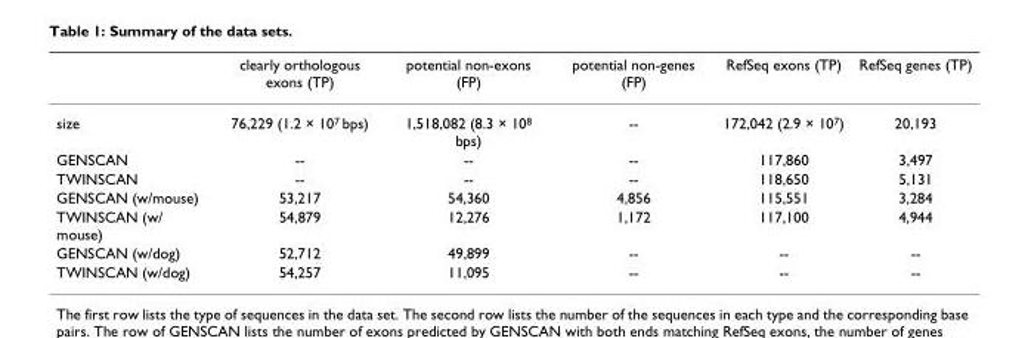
<table><thead><tr><td></td><td>clearly orthologous exons (TP)</td><td>potential non-exons (FP)</td><td>potential non-genes (FP)</td><td>RefSeq exons (TP)</td><td>RefSeq genes (TP)</td></tr></thead><tbody><tr><td>size</td><td>76,229 (1.2 × 10<sup>7</sup> bps)</td><td>1,518,082 (8.3 × 10<sup>8</sup> bps)</td><td>--</td><td>172,042 (2.9 × 10<sup>7</sup>)</td><td>20,193</td></tr><tr><td>GENSCAN</td><td>--</td><td>--</td><td>--</td><td>117,860</td><td>3,497</td></tr><tr><td>TWINSCAN</td><td>--</td><td>--</td><td>--</td><td>118,650</td><td>5,131</td></tr><tr><td>GENSCAN (w/mouse)</td><td>53,217</td><td>54,360</td><td>4,856</td><td>115,551</td><td>3,284</td></tr><tr><td>TWINSCAN (w/ mouse)</td><td>54,879</td><td>12,276</td><td>1,172</td><td>117,100</td><td>4,944</td></tr><tr><td>GENSCAN (w/dog)</td><td>52,712</td><td>49,899</td><td>--</td><td>--</td><td>--</td></tr><tr><td>TWINSCAN (w/dog)</td><td>54,257</td><td>11,095</td><td>--</td><td>--</td><td>--</td></tr></tbody></table>